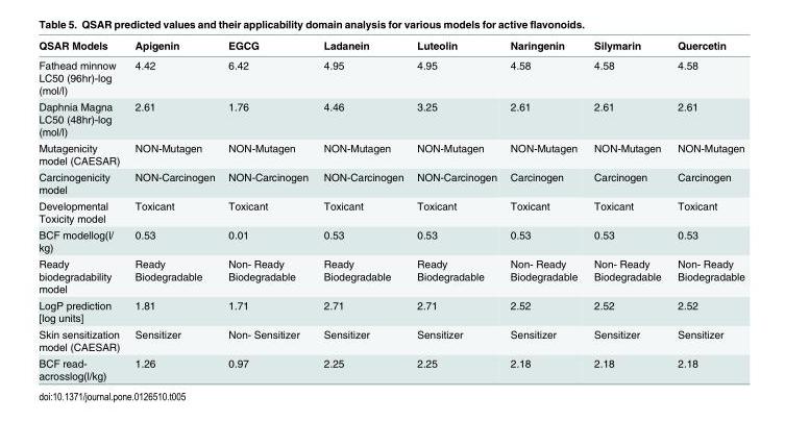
<table><thead><tr><td>QSAR Models</td><td>Apigenin</td><td>EGCG</td><td>Ladanein</td><td>Luteolin</td><td>Naringenin</td><td>Silymarin</td><td>Quercetin</td></tr></thead><tbody><tr><td>Fathead minnow LC50 (96hr)-log (mol/l)</td><td>4.42</td><td>6.42</td><td>4.95</td><td>4.95</td><td>4.58</td><td>4.58</td><td>4.58</td></tr><tr><td>Daphnia Magna LC50 (48hr)-log (mol/l)</td><td>2.61</td><td>1.76</td><td>4.46</td><td>3.25</td><td>2.61</td><td>2.61</td><td>2.61</td></tr><tr><td>Mutagenicity model (CAESAR)</td><td>NON-Mutagen</td><td>NON-Mutagen</td><td>NON-Mutagen</td><td>NON-Mutagen</td><td>NON-Mutagen</td><td>NON-Mutagen</td><td>NON-Mutagen</td></tr><tr><td>Carcinogenicity model</td><td>NON-Carcinogen</td><td>NON-Carcinogen</td><td>NON-Carcinogen</td><td>NON-Carcinogen</td><td>Carcinogen</td><td>Carcinogen</td><td>Carcinogen</td></tr><tr><td>Developmental Toxicity model</td><td>Toxicant</td><td>Toxicant</td><td>Toxicant</td><td>Toxicant</td><td>Toxicant</td><td>Toxicant</td><td>Toxicant</td></tr><tr><td>BCF modellog(l/ kg)</td><td>0.53</td><td>0.01</td><td>0.53</td><td>0.53</td><td>0.53</td><td>0.53</td><td>0.53</td></tr><tr><td>Ready biodegradability model</td><td>Ready Biodegradable</td><td>Non- Ready Biodegradable</td><td>Ready Biodegradable</td><td>Ready Biodegradable</td><td>Non- Ready Biodegradable</td><td>Non- Ready Biodegradable</td><td>Non- Ready Biodegradable</td></tr><tr><td>LogP prediction [log units]</td><td>1.81</td><td>1.71</td><td>2.71</td><td>2.71</td><td>2.52</td><td>2.52</td><td>2.52</td></tr><tr><td>Skin sensitization model (CAESAR)</td><td>Sensitizer</td><td>Non- Sensitizer</td><td>Sensitizer</td><td>Sensitizer</td><td>Sensitizer</td><td>Sensitizer</td><td>Sensitizer</td></tr><tr><td>BCF read- acrosslog(l/kg)</td><td>1.26</td><td>0.97</td><td>2.25</td><td>2.25</td><td>2.18</td><td>2.18</td><td>2.18</td></tr></tbody></table>